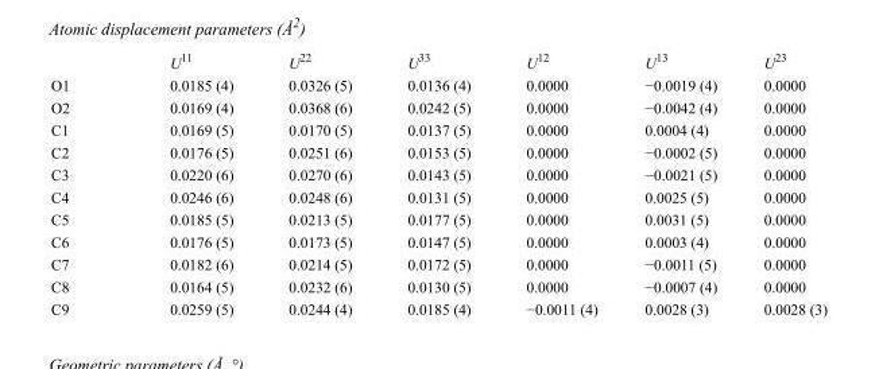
<table><thead><tr><td></td><td>U<sup>11</sup></td><td>U<sup>22</sup></td><td>U<sup>33</sup></td><td>U<sup>12</sup></td><td>U<sup>13</sup></td><td>U<sup>23</sup></td></tr></thead><tbody><tr><td>O1</td><td>0.0185 (4)</td><td>0.0326 (5)</td><td>0.0136 (4)</td><td>0.0000</td><td>−0.0019 (4)</td><td>0.0000</td></tr><tr><td>O2</td><td>0.0169 (4)</td><td>0.0368 (6)</td><td>0.0242 (5)</td><td>0.0000</td><td>−0.0042 (4)</td><td>0.0000</td></tr><tr><td>C1</td><td>0.0169 (5)</td><td>0.0170 (5)</td><td>0.0137 (5)</td><td>0.0000</td><td>0.0004 (4)</td><td>0.0000</td></tr><tr><td>C2</td><td>0.0176 (5)</td><td>0.0251 (6)</td><td>0.0153 (5)</td><td>0.0000</td><td>−0.0002 (5)</td><td>0.0000</td></tr><tr><td>C3</td><td>0.0220 (6)</td><td>0.0270 (6)</td><td>0.0143 (5)</td><td>0.0000</td><td>−0.0021 (5)</td><td>0.0000</td></tr><tr><td>C4</td><td>0.0246 (6)</td><td>0.0248 (6)</td><td>0.0131 (5)</td><td>0.0000</td><td>0.0025 (5)</td><td>0.0000</td></tr><tr><td>C5</td><td>0.0185 (5)</td><td>0.0213 (5)</td><td>0.0177 (5)</td><td>0.0000</td><td>0.0031 (5)</td><td>0.0000</td></tr><tr><td>C6</td><td>0.0176 (5)</td><td>0.0173 (5)</td><td>0.0147 (5)</td><td>0.0000</td><td>0.0003 (4)</td><td>0.0000</td></tr><tr><td>C7</td><td>0.0182 (6)</td><td>0.0214 (5)</td><td>0.0172 (5)</td><td>0.0000</td><td>−0.0011 (5)</td><td>0.0000</td></tr><tr><td>C8</td><td>0.0164 (5)</td><td>0.0232 (6)</td><td>0.0130 (5)</td><td>0.0000</td><td>−0.0007 (4)</td><td>0.0000</td></tr><tr><td>C9</td><td>0.0259 (5)</td><td>0.0244 (4)</td><td>0.0185 (4)</td><td>−0.0011 (4)</td><td>0.0028 (3)</td><td>0.0028 (3)</td></tr></tbody></table>